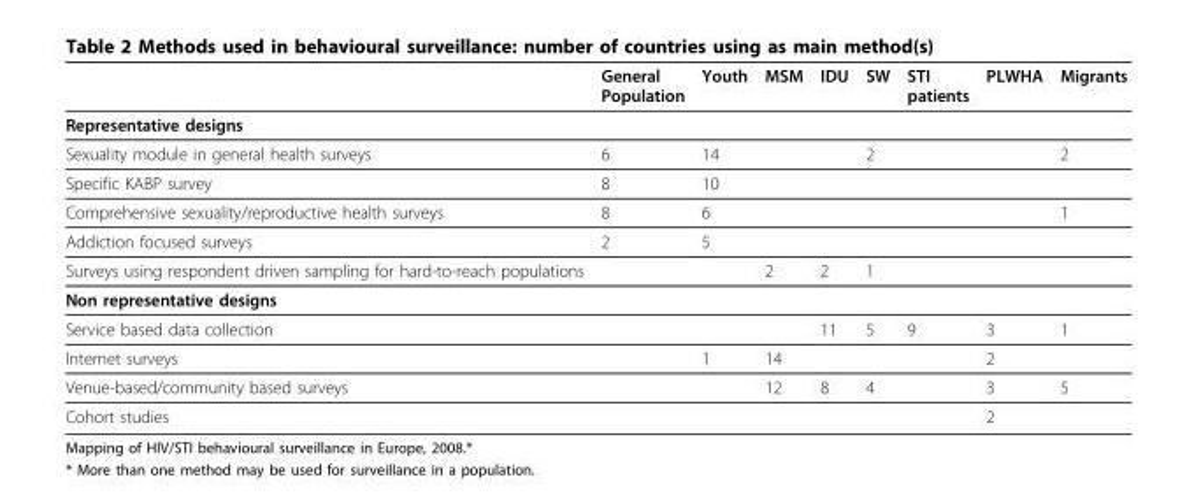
<table><thead><tr><td></td><td>General Population</td><td>Youth</td><td>MSM</td><td>IDU</td><td>SW</td><td>STI patients</td><td>PLWHA</td><td>Migrants</td></tr></thead><tbody><tr><td colspan="9">Representative designs</td></tr><tr><td>Sexuality module in general health surveys</td><td>6</td><td>14</td><td></td><td></td><td>2</td><td></td><td></td><td>2</td></tr><tr><td>Specific KABP survey</td><td>8</td><td>10</td><td></td><td></td><td></td><td></td><td></td><td></td></tr><tr><td>Comprehensive sexuality/reproductive health surveys</td><td>8</td><td>6</td><td></td><td></td><td></td><td></td><td></td><td>1</td></tr><tr><td>Addiction focused surveys</td><td>2</td><td>5</td><td></td><td></td><td></td><td></td><td></td><td></td></tr><tr><td>Surveys using respondent driven sampling for hard-to-reach populations</td><td></td><td></td><td>2</td><td>2</td><td>1</td><td></td><td></td><td></td></tr><tr><td colspan="9">Non representative designs</td></tr><tr><td>Service based data collection</td><td></td><td></td><td></td><td>11</td><td>5</td><td>9</td><td>3</td><td>1</td></tr><tr><td>Internet surveys</td><td></td><td>1</td><td>14</td><td></td><td></td><td></td><td>2</td><td></td></tr><tr><td>Venue-based/community based surveys</td><td></td><td></td><td>12</td><td>8</td><td>4</td><td></td><td>3</td><td>5</td></tr><tr><td>Cohort studies</td><td></td><td></td><td></td><td></td><td></td><td></td><td>2</td><td></td></tr></tbody></table>